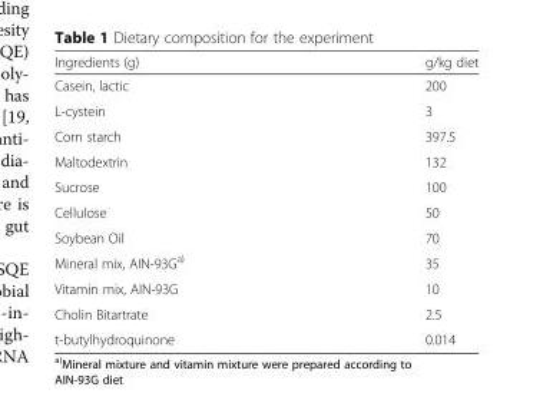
<table><thead><tr><td>Ingredients (g)</td><td>g/kg diet</td></tr></thead><tbody><tr><td>Casein, lactic</td><td>200</td></tr><tr><td>L-cystein</td><td>3</td></tr><tr><td>Corn starch</td><td>397.5</td></tr><tr><td>Maltodextrin</td><td>132</td></tr><tr><td>Sucrose</td><td>100</td></tr><tr><td>Cellulose</td><td>50</td></tr><tr><td>Soybean Oil</td><td>70</td></tr><tr><td>Mineral mix, AIN-93G<sup>a)</sup></td><td>35</td></tr><tr><td>Vitamin mix, AIN-93G</td><td>10</td></tr><tr><td>Cholin Bitartrate</td><td>2.5</td></tr><tr><td>t-butylhydroquinone</td><td>0.014</td></tr></tbody></table>